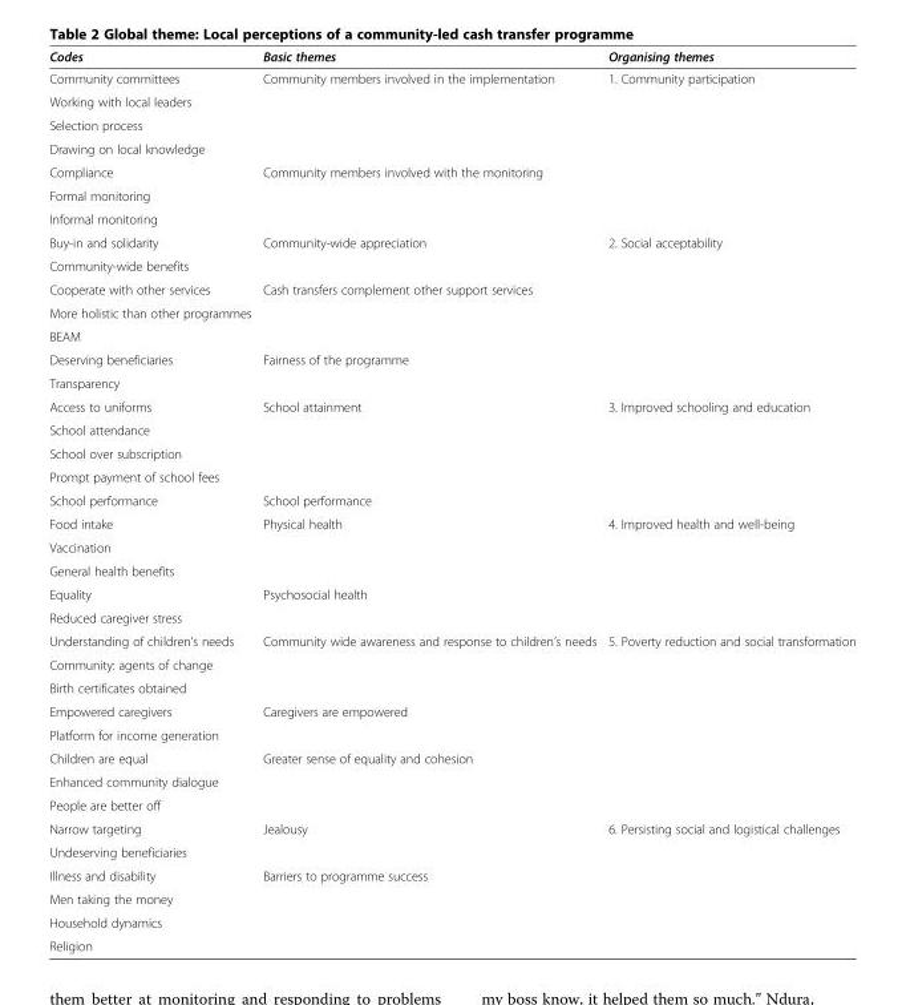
<table><thead><tr><td>Codes</td><td>Basic themes</td><td>Organising themes</td></tr></thead><tbody><tr><td>Community committees</td><td rowspan="4">Community members involved in the implementation</td><td rowspan="7">1. Community participation</td></tr><tr><td>Working with local leaders</td></tr><tr><td>Selection process</td></tr><tr><td>Drawing on local knowledge</td></tr><tr><td>Compliance</td><td rowspan="3">Community members involved with the monitoring</td></tr><tr><td>Formal monitoring</td></tr><tr><td>Informal monitoring</td></tr><tr><td>Buy-in and solidarity</td><td rowspan="2">Community-wide appreciation</td><td rowspan="7">2. Social acceptability</td></tr><tr><td>Community-wide benefits</td></tr><tr><td>Cooperate with other services</td><td rowspan="3">Cash transfers complement other support services</td></tr><tr><td>More holistic than other programmes</td></tr><tr><td>BEAM</td></tr><tr><td>Deserving beneficiaries</td><td rowspan="2">Fairness of the programme</td></tr><tr><td>Transparency</td></tr><tr><td>Access to uniforms</td><td rowspan="4">School attainment</td><td rowspan="5">3. Improved schooling and education</td></tr><tr><td>School attendance</td></tr><tr><td>School over subscription</td></tr><tr><td>Prompt payment of school fees</td></tr><tr><td>School performance</td><td>School performance</td></tr><tr><td>Food intake</td><td rowspan="3">Physical health</td><td rowspan="5">4. Improved health and well-being</td></tr><tr><td>Vaccination</td></tr><tr><td>General health benefits</td></tr><tr><td>Equality</td><td rowspan="2">Psychosocial health</td></tr><tr><td>Reduced caregiver stress</td></tr><tr><td>Understanding of children’s needs</td><td rowspan="3">Community wide awareness and response to children’s needs</td><td rowspan="8">5. Poverty reduction and social transformation</td></tr><tr><td>Community: agents of change</td></tr><tr><td>Birth certificates obtained</td></tr><tr><td>Empowered caregivers</td><td rowspan="2">Caregivers are empowered</td></tr><tr><td>Platform for income generation</td></tr><tr><td>Children are equal</td><td rowspan="3">Greater sense of equality and cohesion</td></tr><tr><td>Enhanced community dialogue</td></tr><tr><td>People are better off</td></tr><tr><td>Narrow targeting</td><td rowspan="2">Jealousy</td><td rowspan="5">6. Persisting social and logistical challenges</td></tr><tr><td>Undeserving beneficiaries</td></tr><tr><td>Illness and disability</td><td rowspan="3">Barriers to programme success</td></tr><tr><td>Men taking the money</td></tr><tr><td>Household dynamics</td></tr><tr><td>Religion</td><td></td><td></td></tr></tbody></table>